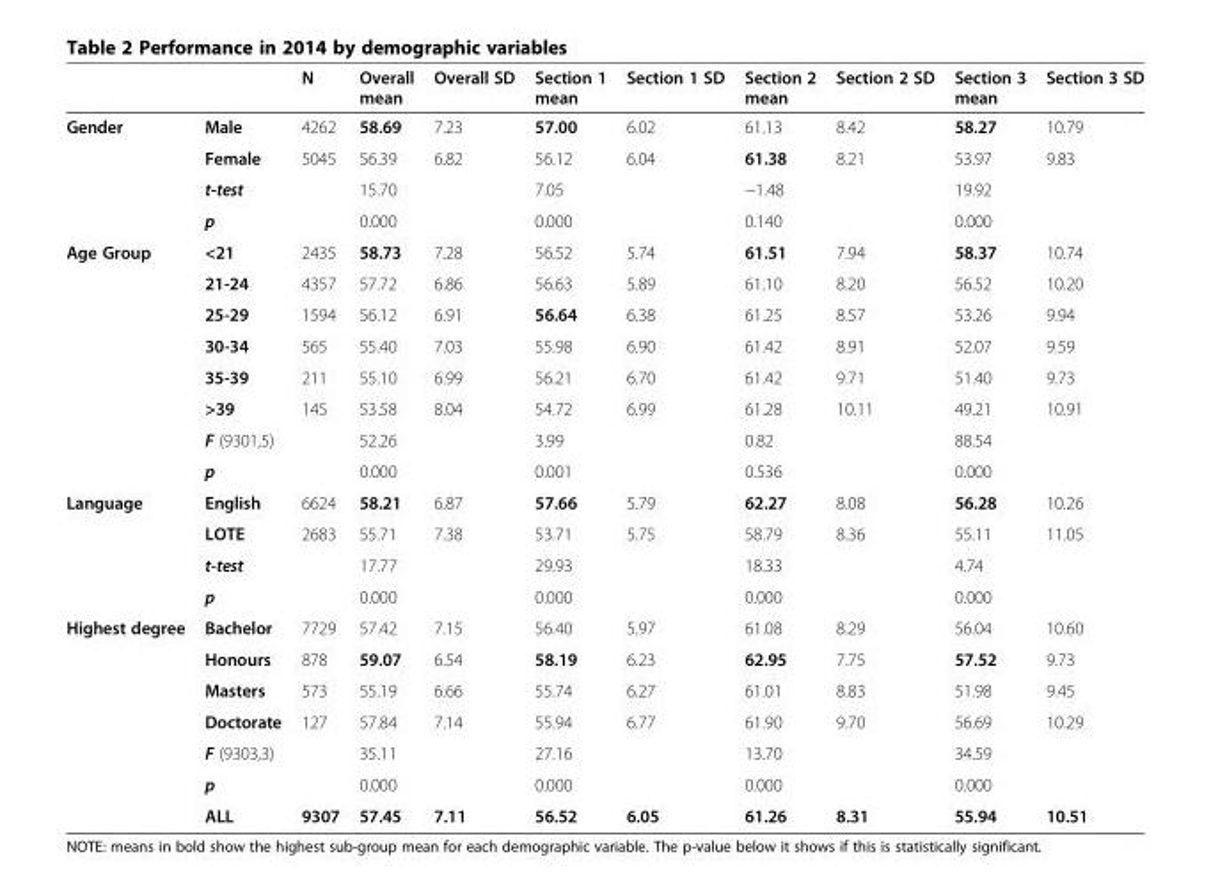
<table><thead><tr><td></td><td></td><td>N</td><td>Overall mean</td><td>Overall SD</td><td>Section 1 mean</td><td>Section 1 SD</td><td>Section 2 mean</td><td>Section 2 SD</td><td>Section 3 mean</td><td>Section 3 SD</td></tr></thead><tbody><tr><td rowspan="4">Gender</td><td>Male</td><td>4262</td><td>58.69</td><td>7.23</td><td>57.00</td><td>6.02</td><td>61.13</td><td>8.42</td><td>58.27</td><td>10.79</td></tr><tr><td>Female</td><td>5045</td><td>56.39</td><td>6.82</td><td>56.12</td><td>6.04</td><td>61.38</td><td>8.21</td><td>53.97</td><td>9.83</td></tr><tr><td>t-test</td><td></td><td colspan="2">15.70</td><td colspan="2">7.05</td><td colspan="2">−1.48</td><td colspan="2">19.92</td></tr><tr><td>p</td><td></td><td colspan="2">0.000</td><td colspan="2">0.000</td><td colspan="2">0.140</td><td colspan="2">0.000</td></tr><tr><td rowspan="8">Age Group</td><td>&lt;21</td><td>2435</td><td>58.73</td><td>7.28</td><td>56.52</td><td>5.74</td><td>61.51</td><td>7.94</td><td>58.37</td><td>10.74</td></tr><tr><td>21-24</td><td>4357</td><td>57.72</td><td>6.86</td><td>56.63</td><td>5.89</td><td>61.10</td><td>8.20</td><td>56.52</td><td>10.20</td></tr><tr><td>25-29</td><td>1594</td><td>56.12</td><td>6.91</td><td>56.64</td><td>6.38</td><td>61.25</td><td>8.57</td><td>53.26</td><td>9.94</td></tr><tr><td>30-34</td><td>565</td><td>55.40</td><td>7.03</td><td>55.98</td><td>6.90</td><td>61.42</td><td>8.91</td><td>52.07</td><td>9.59</td></tr><tr><td>35-39</td><td>211</td><td>55.10</td><td>6.99</td><td>56.21</td><td>6.70</td><td>61.42</td><td>9.71</td><td>51.40</td><td>9.73</td></tr><tr><td>&gt;39</td><td>145</td><td>53.58</td><td>8.04</td><td>54.72</td><td>6.99</td><td>61.28</td><td>10.11</td><td>49.21</td><td>10.91</td></tr><tr><td>F (9301,5)</td><td></td><td colspan="2">52.26</td><td colspan="2">3.99</td><td colspan="2">0.82</td><td colspan="2">88.54</td></tr><tr><td>p</td><td></td><td colspan="2">0.000</td><td colspan="2">0.001</td><td colspan="2">0.536</td><td colspan="2">0.000</td></tr><tr><td rowspan="4">Language</td><td>English</td><td>6624</td><td>58.21</td><td>6.87</td><td>57.66</td><td>5.79</td><td>62.27</td><td>8.08</td><td>56.28</td><td>10.26</td></tr><tr><td>LOTE</td><td>2683</td><td>55.71</td><td>7.38</td><td>53.71</td><td>5.75</td><td>58.79</td><td>8.36</td><td>55.11</td><td>11.05</td></tr><tr><td>t-test</td><td></td><td colspan="2">17.77</td><td colspan="2">29.93</td><td colspan="2">18.33</td><td colspan="2">4.74</td></tr><tr><td>p</td><td></td><td colspan="2">0.000</td><td colspan="2">0.000</td><td colspan="2">0.000</td><td colspan="2">0.000</td></tr><tr><td rowspan="7">Highest degree</td><td>Bachelor</td><td>7729</td><td>57.42</td><td>7.15</td><td>56.40</td><td>5.97</td><td>61.08</td><td>8.29</td><td>56.04</td><td>10.60</td></tr><tr><td>Honours</td><td>878</td><td>59.07</td><td>6.54</td><td>58.19</td><td>6.23</td><td>62.95</td><td>7.75</td><td>57.52</td><td>9.73</td></tr><tr><td>Masters</td><td>573</td><td>55.19</td><td>6.66</td><td>55.74</td><td>6.27</td><td>61.01</td><td>8.83</td><td>51.98</td><td>9.45</td></tr><tr><td>Doctorate</td><td>127</td><td>57.84</td><td>7.14</td><td>55.94</td><td>6.77</td><td>61.90</td><td>9.70</td><td>56.69</td><td>10.29</td></tr><tr><td>F (9303,3)</td><td></td><td colspan="2">35.11</td><td colspan="2">27.16</td><td colspan="2">13.70</td><td colspan="2">34.59</td></tr><tr><td>p</td><td></td><td colspan="2">0.000</td><td colspan="2">0.000</td><td colspan="2">0.000</td><td colspan="2">0.000</td></tr><tr><td>ALL</td><td>9307</td><td>57.45</td><td>7.11</td><td>56.52</td><td>6.05</td><td>61.26</td><td>8.31</td><td>55.94</td><td>10.51</td></tr></tbody></table>